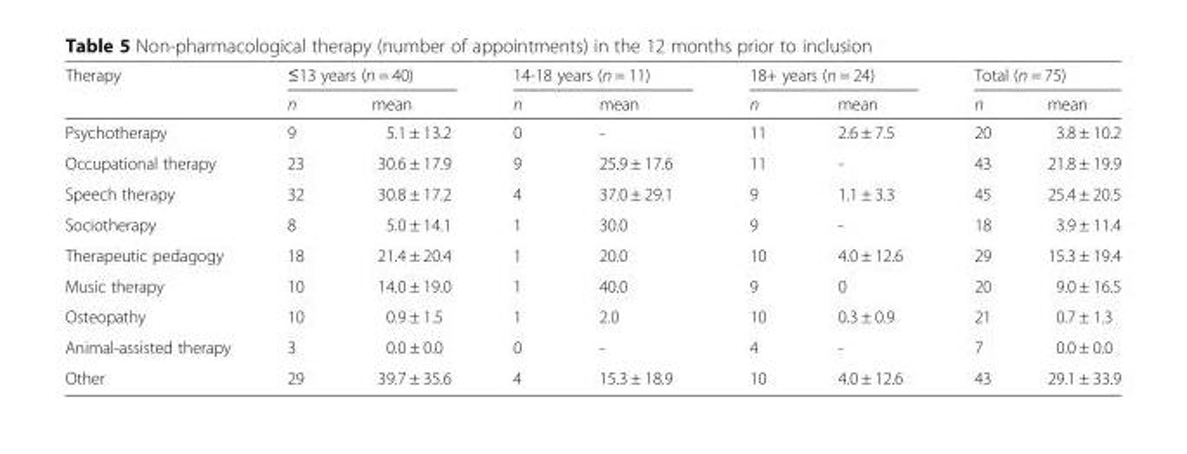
<table><thead><tr><td rowspan="2">Therapy</td><td colspan="2">≤13 years (n = 40)</td><td colspan="2">14-18 years (n = 11)</td><td colspan="2">18+ years (n = 24)</td><td colspan="2">Total (n = 75)</td></tr><tr><td>n</td><td>mean</td><td>n</td><td>mean</td><td>n</td><td>mean</td><td>n</td><td>mean</td></tr></thead><tbody><tr><td>Psychotherapy</td><td>9</td><td>5.1 ± 13.2</td><td>0</td><td>-</td><td>11</td><td>2.6 ± 7.5</td><td>20</td><td>3.8 ± 10.2</td></tr><tr><td>Occupational therapy</td><td>23</td><td>30.6 ± 17.9</td><td>9</td><td>25.9 ± 17.6</td><td>11</td><td>-</td><td>43</td><td>21.8 ± 19.9</td></tr><tr><td>Speech therapy</td><td>32</td><td>30.8 ± 17.2</td><td>4</td><td>37.0 ± 29.1</td><td>9</td><td>1.1 ± 3.3</td><td>45</td><td>25.4 ± 20.5</td></tr><tr><td>Sociotherapy</td><td>8</td><td>5.0 ± 14.1</td><td>1</td><td>30.0</td><td>9</td><td>-</td><td>18</td><td>3.9 ± 11.4</td></tr><tr><td>Therapeutic pedagogy</td><td>18</td><td>21.4 ± 20.4</td><td>1</td><td>20.0</td><td>10</td><td>4.0 ± 12.6</td><td>29</td><td>15.3 ± 19.4</td></tr><tr><td>Music therapy</td><td>10</td><td>14.0 ± 19.0</td><td>1</td><td>40.0</td><td>9</td><td>0</td><td>20</td><td>9.0 ± 16.5</td></tr><tr><td>Osteopathy</td><td>10</td><td>0.9 ± 1.5</td><td>1</td><td>2.0</td><td>10</td><td>0.3 ± 0.9</td><td>21</td><td>0.7 ± 1.3</td></tr><tr><td>Animal-assisted therapy</td><td>3</td><td>0.0 ± 0.0</td><td>0</td><td>-</td><td>4</td><td>-</td><td>7</td><td>0.0 ± 0.0</td></tr><tr><td>Other</td><td>29</td><td>39.7 ± 35.6</td><td>4</td><td>15.3 ± 18.9</td><td>10</td><td>4.0 ± 12.6</td><td>43</td><td>29.1 ± 33.9</td></tr></tbody></table>